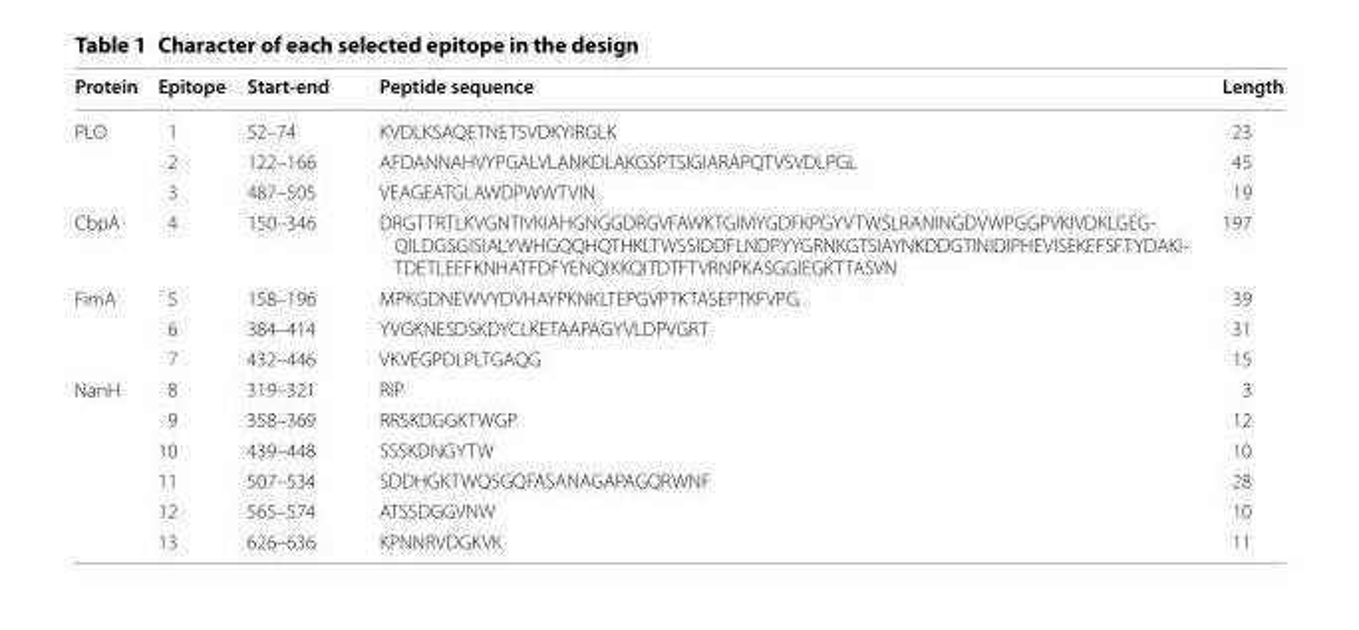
<table><thead><tr><td>Protein</td><td>Epitope</td><td>Start‑end</td><td>Peptide sequence</td><td>Length</td></tr></thead><tbody><tr><td rowspan="3">PLO</td><td>1</td><td>52–74</td><td>KVDLKSAQETNETSVDKYIRGLK</td><td>23</td></tr><tr><td>2</td><td>122–166</td><td>AFDANNAHVYPGALVLANKDLAKGSPTSIGIARAPQTVSVDLPGL</td><td>45</td></tr><tr><td>3</td><td>487–505</td><td>VEAGEATGLAWDPWWTVIN</td><td>19</td></tr><tr><td>CbpA</td><td>4</td><td>150–346</td><td>DRGTTRTLKVGNTIVKIAHGNGGDRGVFAWKTGIMYGDFKPGYVTWSLRANINGDVWPGGPVKIVDKLGEG- QILDGSGISIALYWHGQQHQTHKLTWSSIDDFLNDPYYGRNKGTSIAYNKDDGTINIDIPHEVISEKEFSFTYDAKI- TDETLEEFKNHATFDFYENQIKKQITDTFTVRNPKASGGIEGKTTASVN</td><td>197</td></tr><tr><td rowspan="3">FimA</td><td>5</td><td>158–196</td><td>MPKGDNEWVYDVHAYPKNKLTEPGVPTKTASEPTKFVPG</td><td>39</td></tr><tr><td>6</td><td>384–414</td><td>YVGKNESDSKDYCLKETAAPAGYVLDPVGRT</td><td>31</td></tr><tr><td>7</td><td>432–446</td><td>VKVEGPDLPLTGAQG</td><td>15</td></tr><tr><td rowspan="6">NanH</td><td>8</td><td>319–321</td><td>RIP</td><td>3</td></tr><tr><td>9</td><td>358–369</td><td>RRSKDGGKTWGP</td><td>12</td></tr><tr><td>10</td><td>439–448</td><td>SSSKDNGYTW</td><td>10</td></tr><tr><td>11</td><td>507–534</td><td>SDDHGKTWQSGQFASANAGAPAGQRWNF</td><td>28</td></tr><tr><td>12</td><td>565–574</td><td>ATSSDGGVNW</td><td>10</td></tr><tr><td>13</td><td>626–636</td><td>KPNNRVDGKVK</td><td>11</td></tr></tbody></table>